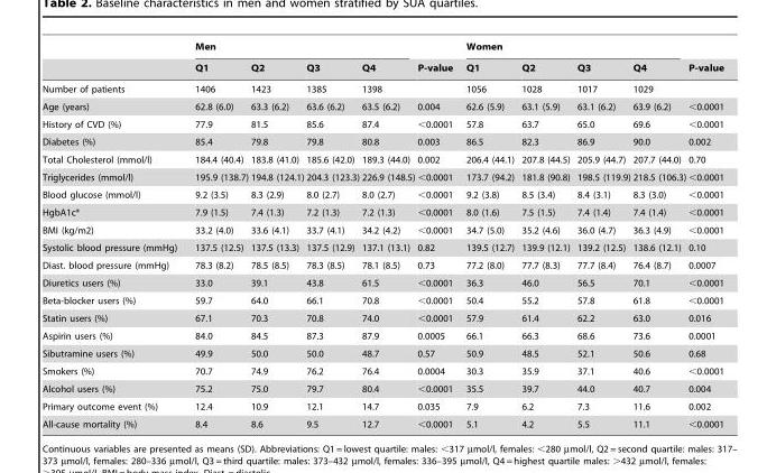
<table><thead><tr><td rowspan="2"></td><td colspan="4">Men</td><td rowspan="2">P-value</td><td colspan="4">Women</td><td rowspan="2">P-value</td></tr><tr><td>Q1</td><td>Q2</td><td>Q3</td><td>Q4</td><td>Q1</td><td>Q2</td><td>Q3</td><td>Q4</td></tr></thead><tbody><tr><td>Number of patients</td><td>1406</td><td>1423</td><td>1385</td><td>1398</td><td></td><td>1056</td><td>1028</td><td>1017</td><td>1029</td><td></td></tr><tr><td>Age (years)</td><td>62.8 (6.0)</td><td>63.3 (6.2)</td><td>63.6 (6.2)</td><td>63.5 (6.2)</td><td>0.004</td><td>62.6 (5.9)</td><td>63.1 (5.9)</td><td>63.1 (6.2)</td><td>63.9 (6.2)</td><td>&lt;0.0001</td></tr><tr><td>History of CVD (%)</td><td>77.9</td><td>81.5</td><td>85.6</td><td>87.4</td><td>&lt;0.0001</td><td>57.8</td><td>63.7</td><td>65.0</td><td>69.6</td><td>&lt;0.0001</td></tr><tr><td>Diabetes (%)</td><td>85.4</td><td>79.8</td><td>79.8</td><td>80.8</td><td>0.003</td><td>86.5</td><td>82.3</td><td>86.9</td><td>90.0</td><td>0.002</td></tr><tr><td>Total Cholesterol (mmol/l)</td><td>184.4 (40.4)</td><td>183.8 (41.0)</td><td>185.6 (42.0)</td><td>189.3 (44.0)</td><td>0.002</td><td>206.4 (44.1)</td><td>207.8 (44.5)</td><td>205.9 (44.7)</td><td>207.7 (44.0)</td><td>0.70</td></tr><tr><td>Triglycerides (mmol/l)</td><td>195.9 (138.7)</td><td>194.8 (124.1)</td><td>204.3 (123.3)</td><td>226.9 (148.5)</td><td>&lt;0.0001</td><td>173.7 (94.2)</td><td>181.8 (90.8)</td><td>198.5 (119.9)</td><td>218.5 (106.3)</td><td>&lt;0.0001</td></tr><tr><td>Blood glucose (mmol/l)</td><td>9.2 (3.5)</td><td>8.3 (2.9)</td><td>8.0 (2.7)</td><td>8.0 (2.7)</td><td>&lt;0.0001</td><td>9.2 (3.8)</td><td>8.5 (3.4)</td><td>8.4 (3.1)</td><td>8.3 (3.0)</td><td>&lt;0.0001</td></tr><tr><td>HgbA1c*</td><td>7.9 (1.5)</td><td>7.4 (1.3)</td><td>7.2 (1.3)</td><td>7.2 (1.3)</td><td>&lt;0.0001</td><td>8.0 (1.6)</td><td>7.5 (1.5)</td><td>7.4 (1.4)</td><td>7.4 (1.4)</td><td>&lt;0.0001</td></tr><tr><td>BMI (kg/m2)</td><td>33.2 (4.0)</td><td>33.6 (4.1)</td><td>33.7 (4.1)</td><td>34.2 (4.2)</td><td>&lt;0.0001</td><td>34.7 (5.0)</td><td>35.2 (4.6)</td><td>36.0 (4.7)</td><td>36.3 (4.9)</td><td>&lt;0.0001</td></tr><tr><td>Systolic blood pressure (mmHg)</td><td>137.5 (12.5)</td><td>137.5 (13.3)</td><td>137.5 (12.9)</td><td>137.1 (13.1)</td><td>0.82</td><td>139.5 (12.7)</td><td>139.9 (12.1)</td><td>139.2 (12.5)</td><td>138.6 (12.1)</td><td>0.10</td></tr><tr><td>Diast. blood pressure (mmHg)</td><td>78.3 (8.2)</td><td>78.5 (8.5)</td><td>78.3 (8.5)</td><td>78.1 (8.5)</td><td>0.73</td><td>77.2 (8.0)</td><td>77.7 (8.3)</td><td>77.7 (8.4)</td><td>76.4 (8.7)</td><td>0.0007</td></tr><tr><td>Diuretics users (%)</td><td>33.0</td><td>39.1</td><td>43.8</td><td>61.5</td><td>&lt;0.0001</td><td>36.3</td><td>46.0</td><td>56.5</td><td>70.1</td><td>&lt;0.0001</td></tr><tr><td>Beta-blocker users (%)</td><td>59.7</td><td>64.0</td><td>66.1</td><td>70.8</td><td>&lt;0.0001</td><td>50.4</td><td>55.2</td><td>57.8</td><td>61.8</td><td>&lt;0.0001</td></tr><tr><td>Statin users (%)</td><td>67.1</td><td>70.3</td><td>70.8</td><td>74.0</td><td>&lt;0.0001</td><td>57.9</td><td>61.4</td><td>62.2</td><td>63.0</td><td>0.016</td></tr><tr><td>Aspirin users (%)</td><td>84.0</td><td>84.5</td><td>87.3</td><td>87.9</td><td>0.0005</td><td>66.1</td><td>66.3</td><td>68.6</td><td>73.6</td><td>0.0001</td></tr><tr><td>Sibutramine users (%)</td><td>49.9</td><td>50.0</td><td>50.0</td><td>48.7</td><td>0.57</td><td>50.9</td><td>48.5</td><td>52.1</td><td>50.6</td><td>0.68</td></tr><tr><td>Smokers (%)</td><td>70.7</td><td>74.9</td><td>76.2</td><td>76.4</td><td>0.0004</td><td>30.3</td><td>35.9</td><td>37.1</td><td>40.6</td><td>&lt;0.0001</td></tr><tr><td>Alcohol users (%)</td><td>75.2</td><td>75.0</td><td>79.7</td><td>80.4</td><td>&lt;0.0001</td><td>35.5</td><td>39.7</td><td>44.0</td><td>40.7</td><td>0.004</td></tr><tr><td>Primary outcome event (%)</td><td>12.4</td><td>10.9</td><td>12.1</td><td>14.7</td><td>0.035</td><td>7.9</td><td>6.2</td><td>7.3</td><td>11.6</td><td>0.002</td></tr><tr><td>All-cause mortality (%)</td><td>8.4</td><td>8.6</td><td>9.5</td><td>12.7</td><td>&lt;0.0001</td><td>5.1</td><td>4.2</td><td>5.5</td><td>11.1</td><td>&lt;0.0001</td></tr></tbody></table>